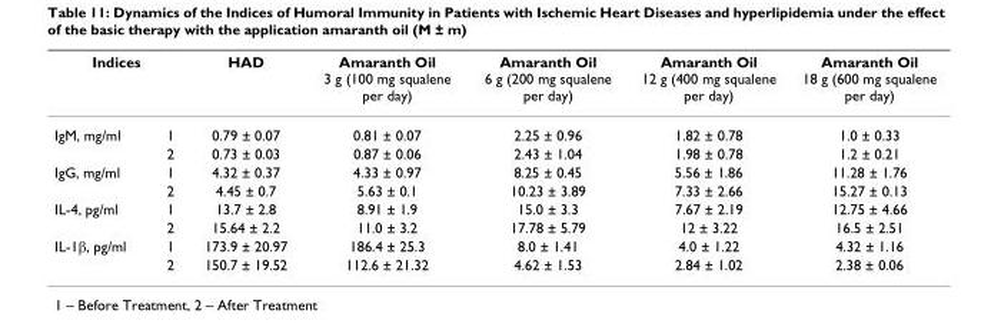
<table><thead><tr><td colspan="2">Indices</td><td rowspan="2">HAD 0.79 ± 0.07</td><td rowspan="2">Amaranth Oil 3 g (100 mg squalene per day) 0.81 ± 0.07</td><td rowspan="2">Amaranth Oil 6 g (200 mg squalene per day) 2.25 ± 0.96</td><td rowspan="2">Amaranth Oil 12 g (400 mg squalene per day) 1.82 ± 0.78</td><td rowspan="2">Amaranth Oil 18 g (600 mg squalene per day) 1.0 ± 0.33</td></tr><tr><td>IgM, mg/ml</td><td>1</td></tr></thead><tbody><tr><td></td><td>2</td><td>0.73 ± 0.03</td><td>0.87 ± 0.06</td><td>2.43 ± 1.04</td><td>1.98 ± 0.78</td><td>1.2 ± 0.21</td></tr><tr><td rowspan="2">IgG, mg/ml</td><td>1</td><td>4.32 ± 0.37</td><td>4.33 ± 0.97</td><td>8.25 ± 0.45</td><td>5.56 ± 1.86</td><td>11.28 ± 1.76</td></tr><tr><td>2</td><td>4.45 ± 0.7</td><td>5.63 ± 0.1</td><td>10.23 ± 3.89</td><td>7.33 ± 2.66</td><td>15.27 ± 0.13</td></tr><tr><td rowspan="2">IL-4, pg/ml</td><td>1</td><td>13.7 ± 2.8</td><td>8.91 ± 1.9</td><td>15.0 ± 3.3</td><td>7.67 ± 2.19</td><td>12.75 ± 4.66</td></tr><tr><td>2</td><td>15.64 ± 2.2</td><td>11.0 ± 3.2</td><td>17.78 ± 5.79</td><td>12 ± 3.22</td><td>16.5 ± 2.51</td></tr><tr><td rowspan="2">IL-1β, pg/ml</td><td>1</td><td>173.9 ± 20.97</td><td>186.4 ± 25.3</td><td>8.0 ± 1.41</td><td>4.0 ± 1.22</td><td>4.32 ± 1.16</td></tr><tr><td>2</td><td>150.7 ± 19.52</td><td>112.6 ± 21.32</td><td>4.62 ± 1.53</td><td>2.84 ± 1.02</td><td>2.38 ± 0.06</td></tr></tbody></table>